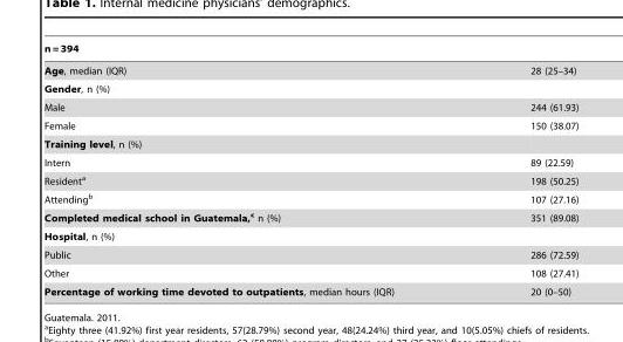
<table><thead><tr><td colspan="2">n = 394</td></tr><tr><td>Age, median (IQR)</td><td>28 (25–34)</td></tr></thead><tbody><tr><td colspan="2">Gender, n (%)</td></tr><tr><td>Male</td><td>244 (61.93)</td></tr><tr><td>Female</td><td>150 (38.07)</td></tr><tr><td colspan="2">Training level, n (%)</td></tr><tr><td>Intern</td><td>89 (22.59)</td></tr><tr><td>Resident<sup>a</sup></td><td>198 (50.25)</td></tr><tr><td>Attending<sup>b</sup></td><td>107 (27.16)</td></tr><tr><td>Completed medical school in Guatemala,c n (%)</td><td>351 (89.08)</td></tr><tr><td colspan="2">Hospital, n (%)</td></tr><tr><td>Public</td><td>286 (72.59)</td></tr><tr><td>Other</td><td>108 (27.41)</td></tr><tr><td>Percentage of working time devoted to outpatients, median hours (IQR)</td><td>20 (0–50)</td></tr></tbody></table>